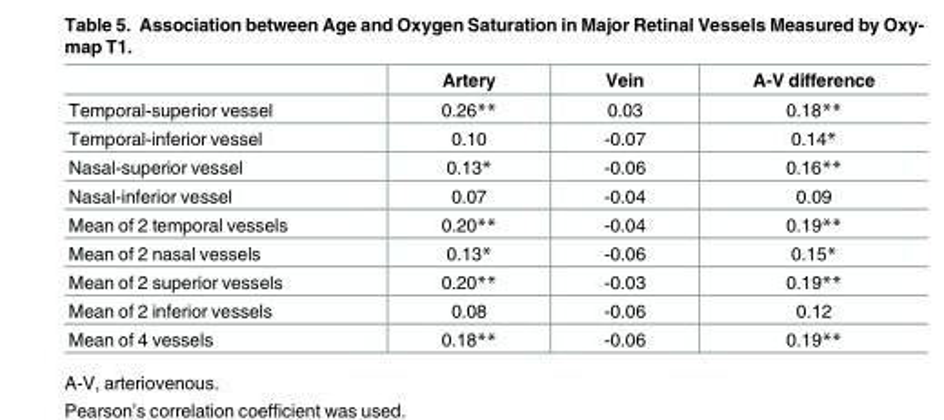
<table><thead><tr><td></td><td>Artery</td><td>Vein</td><td>A-V difference</td></tr></thead><tbody><tr><td>Temporal-superior vessel</td><td>0.26**</td><td>0.03</td><td>0.18**</td></tr><tr><td>Temporal-inferior vessel</td><td>0.10</td><td>-0.07</td><td>0.14*</td></tr><tr><td>Nasal-superior vessel</td><td>0.13*</td><td>-0.06</td><td>0.16**</td></tr><tr><td>Nasal-inferior vessel</td><td>0.07</td><td>-0.04</td><td>0.09</td></tr><tr><td>Mean of 2 temporal vessels</td><td>0.20**</td><td>-0.04</td><td>0.19**</td></tr><tr><td>Mean of 2 nasal vessels</td><td>0.13*</td><td>-0.06</td><td>0.15*</td></tr><tr><td>Mean of 2 superior vessels</td><td>0.20**</td><td>-0.03</td><td>0.19**</td></tr><tr><td>Mean of 2 inferior vessels</td><td>0.08</td><td>-0.06</td><td>0.12</td></tr><tr><td>Mean of 4 vessels</td><td>0.18**</td><td>-0.06</td><td>0.19**</td></tr></tbody></table>